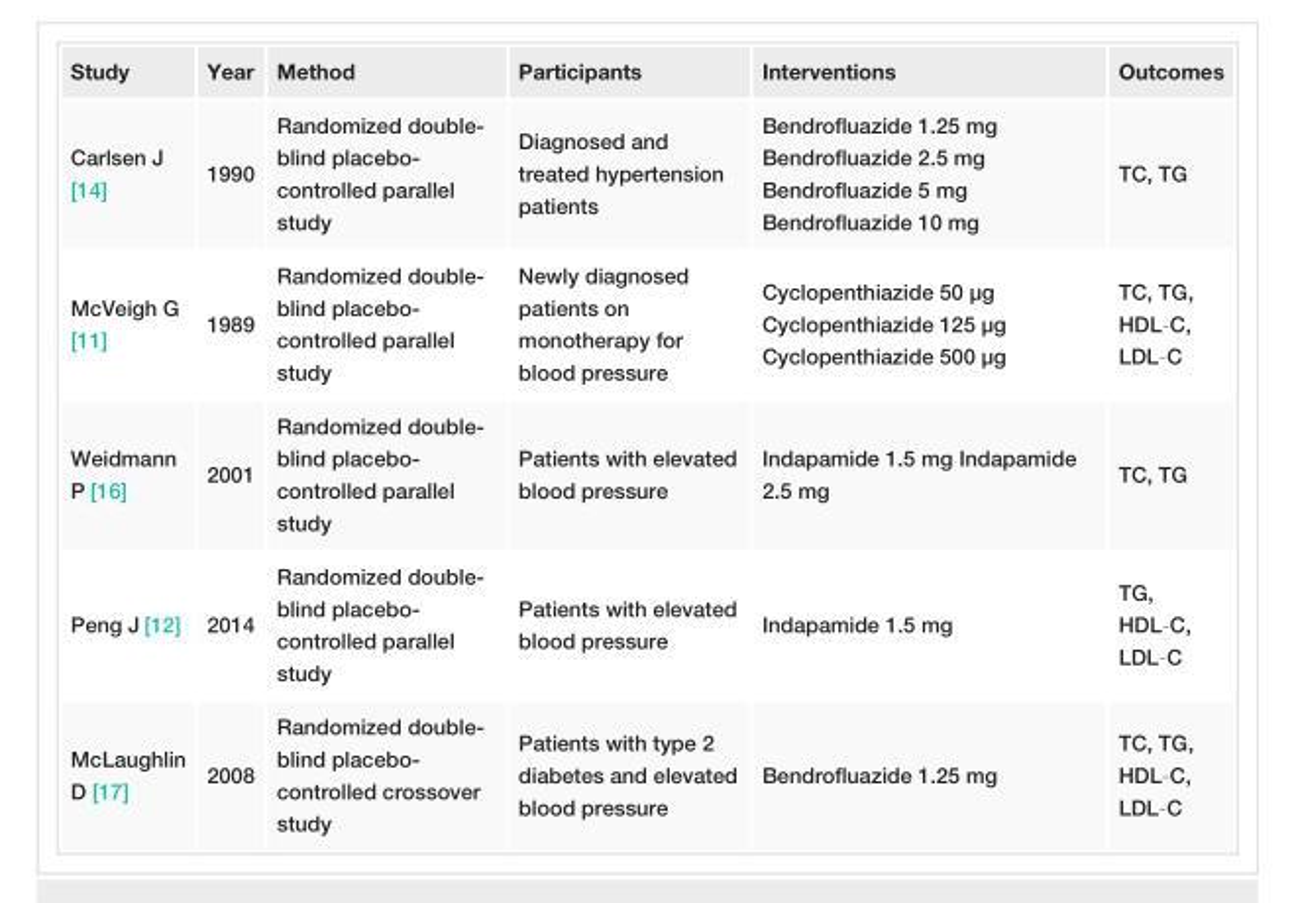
<table><tbody><tr><td>Study</td><td>Year</td><td>Method</td><td>Participants</td><td>Interventions</td><td>Outcomes</td></tr><tr><td>Carlsen J [14]</td><td>1990</td><td>Randomized double- blind placebo- controlled parallel study</td><td>Diagnosed and treated hypertension patients</td><td>Bendrofluazide 1.25 mg Bendrofluazide 2.5 mg Bendrofluazide 5 mg Bendrofluazide 10 mg</td><td>TC, TG</td></tr><tr><td>McVeigh G [11]</td><td>1989</td><td>Randomized double- blind placebo- controlled parallel study</td><td>Newly diagnosed patients on monotherapy for blood pressure</td><td>Cyclopenthiazide 50 µg Cyclopenthiazide 125 µg Cyclopenthiazide 500 µg</td><td>TC, TG, HDL‑C, LDL‑C</td></tr><tr><td>Weidmann P [16]</td><td>2001</td><td>Randomized double- blind placebo- controlled parallel study</td><td>Patients with elevated blood pressure</td><td>Indapamide 1.5 mg Indapamide 2.5 mg</td><td>TC, TG</td></tr><tr><td>Peng J [12]</td><td>2014</td><td>Randomized double- blind placebo- controlled parallel study</td><td>Patients with elevated blood pressure</td><td>Indapamide 1.5 mg</td><td>TG, HDL‑C, LDL‑C</td></tr><tr><td>McLaughlin D [17]</td><td>2008</td><td>Randomized double- blind placebo- controlled crossover study</td><td>Patients with type 2 diabetes and elevated blood pressure</td><td>Bendrofluazide 1.25 mg</td><td>TC, TG, HDL‑C, LDL‑C</td></tr></tbody></table>